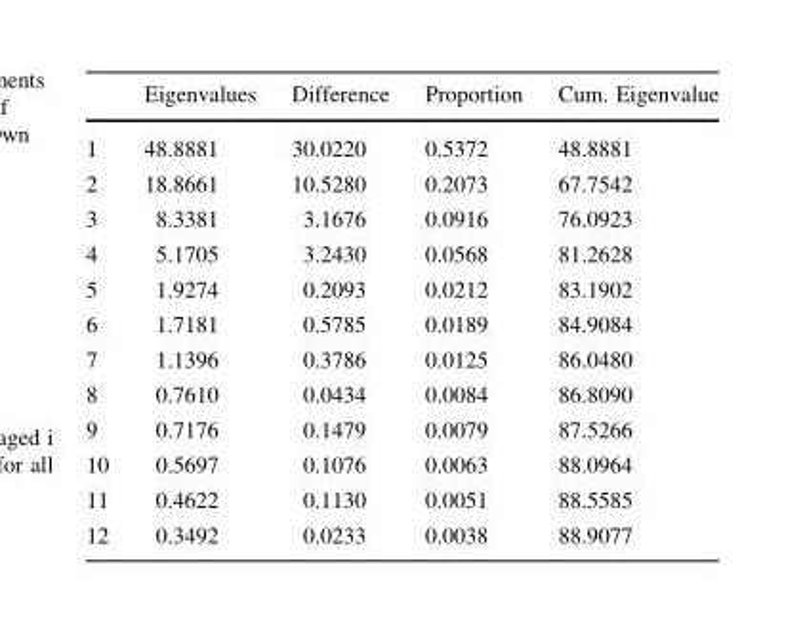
<table><thead><tr><td></td><td>Eigenvalues</td><td>Difference</td><td>Proportion</td><td>Cum. Eigenvalue</td></tr></thead><tbody><tr><td>1</td><td>48.8881</td><td>30.0220</td><td>0.5372</td><td>48.8881</td></tr><tr><td>2</td><td>18.8661</td><td>10.5280</td><td>0.2073</td><td>67.7542</td></tr><tr><td>3</td><td>8.3381</td><td>3.1676</td><td>0.0916</td><td>76.0923</td></tr><tr><td>4</td><td>5.1705</td><td>3.2430</td><td>0.0568</td><td>81.2628</td></tr><tr><td>5</td><td>1.9274</td><td>0.2093</td><td>0.0212</td><td>83.1902</td></tr><tr><td>6</td><td>1.7181</td><td>0.5785</td><td>0.0189</td><td>84.9084</td></tr><tr><td>7</td><td>1.1396</td><td>0.3786</td><td>0.0125</td><td>86.0480</td></tr><tr><td>8</td><td>0.7610</td><td>0.0434</td><td>0.0084</td><td>86.8090</td></tr><tr><td>9</td><td>0.7176</td><td>0.1479</td><td>0.0079</td><td>87.5266</td></tr><tr><td>10</td><td>0.5697</td><td>0.1076</td><td>0.0063</td><td>88.0964</td></tr><tr><td>11</td><td>0.4622</td><td>0.1130</td><td>0.0051</td><td>88.5585</td></tr><tr><td>12</td><td>0.3492</td><td>0.0233</td><td>0.0038</td><td>88.9077</td></tr></tbody></table>